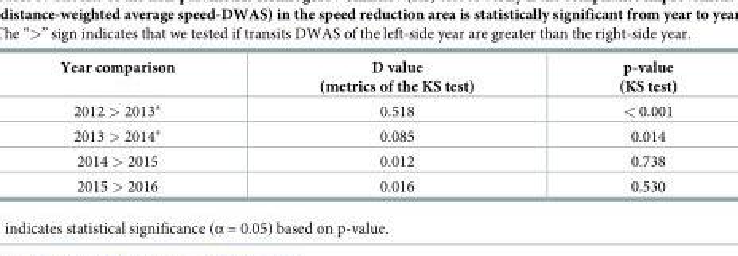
<table><thead><tr><td>Year comparison</td><td>D value (metrics of the KS test)</td><td>p-value (KS test)</td></tr></thead><tbody><tr><td>2012 &gt; 2013*</td><td>0.518</td><td>&lt; 0.001</td></tr><tr><td>2013 &gt; 2014*</td><td>0.085</td><td>0.014</td></tr><tr><td>2014 &gt; 2015</td><td>0.012</td><td>0.738</td></tr><tr><td>2015 &gt; 2016</td><td>0.016</td><td>0.530</td></tr></tbody></table>